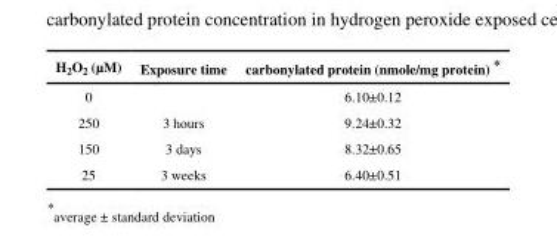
<table><thead><tr><td>H<sub>2</sub>O<sub>2</sub> (μM)</td><td>Exposure time</td><td>carbonylated protein (nmole/mg protein) *</td></tr></thead><tbody><tr><td>0</td><td></td><td>6.10±0.12</td></tr><tr><td>250</td><td>3 hours</td><td>9.24±0.32</td></tr><tr><td>150</td><td>3 days</td><td>8.32±0.65</td></tr><tr><td>25</td><td>3 weeks</td><td>6.40±0.51</td></tr></tbody></table>